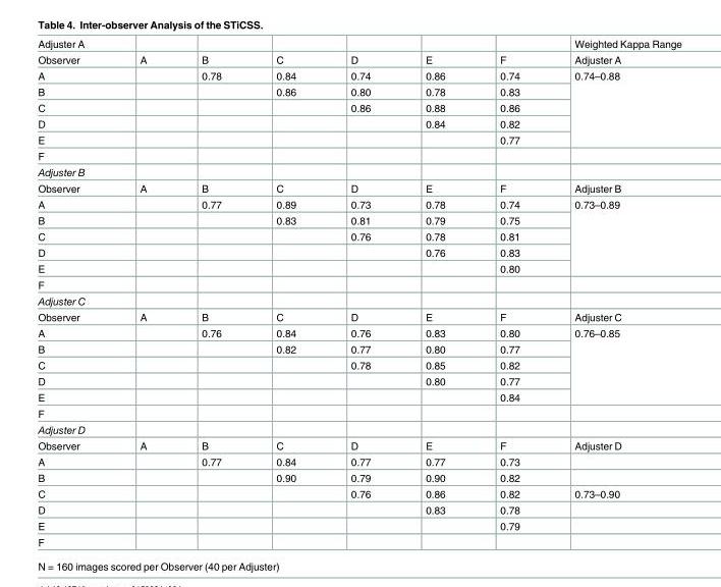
<table><tbody><tr><td>Adjuster A</td><td></td><td></td><td></td><td></td><td></td><td></td><td>Weighted Kappa Range</td></tr><tr><td>Observer</td><td>A</td><td>B</td><td>C</td><td>D</td><td>E</td><td>F</td><td>Adjuster A</td></tr><tr><td>A</td><td></td><td>0.78</td><td>0.84</td><td>0.74</td><td>0.86</td><td>0.74</td><td rowspan="5">0.74–0.88</td></tr><tr><td>B</td><td></td><td></td><td>0.86</td><td>0.80</td><td>0.78</td><td>0.83</td></tr><tr><td>C</td><td></td><td></td><td></td><td>0.86</td><td>0.88</td><td>0.86</td></tr><tr><td>D</td><td></td><td></td><td></td><td></td><td>0.84</td><td>0.82</td></tr><tr><td>E</td><td></td><td></td><td></td><td></td><td></td><td>0.77</td></tr><tr><td colspan="8">F</td></tr><tr><td colspan="8">Adjuster B</td></tr><tr><td>Observer</td><td>A</td><td>B</td><td>C</td><td>D</td><td>E</td><td>F</td><td>Adjuster B</td></tr><tr><td>A</td><td></td><td>0.77</td><td>0.89</td><td>0.73</td><td>0.78</td><td>0.74</td><td rowspan="5">0.73–0.89</td></tr><tr><td>B</td><td></td><td></td><td>0.83</td><td>0.81</td><td>0.79</td><td>0.75</td></tr><tr><td>C</td><td></td><td></td><td></td><td>0.76</td><td>0.78</td><td>0.81</td></tr><tr><td>D</td><td></td><td></td><td></td><td></td><td>0.76</td><td>0.83</td></tr><tr><td>E</td><td></td><td></td><td></td><td></td><td></td><td>0.80</td></tr><tr><td colspan="8">F</td></tr><tr><td colspan="8">Adjuster C</td></tr><tr><td>Observer</td><td>A</td><td>B</td><td>C</td><td>D</td><td>E</td><td>F</td><td>Adjuster C</td></tr><tr><td>A</td><td></td><td>0.76</td><td>0.84</td><td>0.76</td><td>0.83</td><td>0.80</td><td rowspan="5">0.76–0.85</td></tr><tr><td>B</td><td></td><td></td><td>0.82</td><td>0.77</td><td>0.80</td><td>0.77</td></tr><tr><td>C</td><td></td><td></td><td></td><td>0.78</td><td>0.85</td><td>0.82</td></tr><tr><td>D</td><td></td><td></td><td></td><td></td><td>0.80</td><td>0.77</td></tr><tr><td>E</td><td></td><td></td><td></td><td></td><td></td><td>0.84</td></tr><tr><td colspan="8">F</td></tr><tr><td colspan="8">Adjuster D</td></tr><tr><td>Observer</td><td>A</td><td>B</td><td>C</td><td>D</td><td>E</td><td>F</td><td>Adjuster D</td></tr><tr><td>A</td><td></td><td>0.77</td><td>0.84</td><td>0.77</td><td>0.77</td><td>0.73</td><td></td></tr><tr><td>B</td><td></td><td></td><td>0.90</td><td>0.79</td><td>0.90</td><td>0.82</td><td></td></tr><tr><td>C</td><td></td><td></td><td></td><td>0.76</td><td>0.86</td><td>0.82</td><td>0.73–0.90</td></tr><tr><td>D</td><td></td><td></td><td></td><td></td><td>0.83</td><td>0.78</td><td></td></tr><tr><td>E</td><td></td><td></td><td></td><td></td><td></td><td>0.79</td><td></td></tr><tr><td>F</td><td></td><td></td><td></td><td></td><td></td><td></td><td></td></tr></tbody></table>